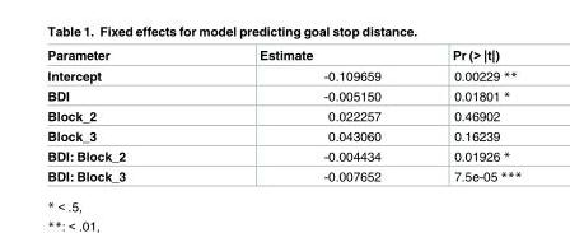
<table><thead><tr><td>Parameter</td><td>Estimate</td><td>Pr (&gt; |t|)</td></tr></thead><tbody><tr><td>Intercept</td><td>-0.109659</td><td>0.00229 **</td></tr><tr><td>BDI</td><td>-0.005150</td><td>0.01801 *</td></tr><tr><td>Block_2</td><td>0.022257</td><td>0.46902</td></tr><tr><td>Block_3</td><td>0.043060</td><td>0.16239</td></tr><tr><td>BDI: Block_2</td><td>-0.004434</td><td>0.01926 *</td></tr><tr><td>BDI: Block_3</td><td>-0.007652</td><td>7.5e-05 ***</td></tr></tbody></table>